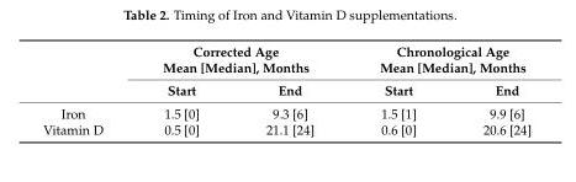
<table><thead><tr><td rowspan="2"></td><td colspan="2">Corrected Age Mean [Median], Months</td><td colspan="2">Chronological Age Mean [Median], Months</td></tr><tr><td>Start</td><td>End</td><td>Start</td><td>End</td></tr></thead><tbody><tr><td>Iron</td><td>1.5 [0]</td><td>9.3 [6]</td><td>1.5 [1]</td><td>9.9 [6]</td></tr><tr><td>Vitamin D</td><td>0.5 [0]</td><td>21.1 [24]</td><td>0.6 [0]</td><td>20.6 [24]</td></tr></tbody></table>